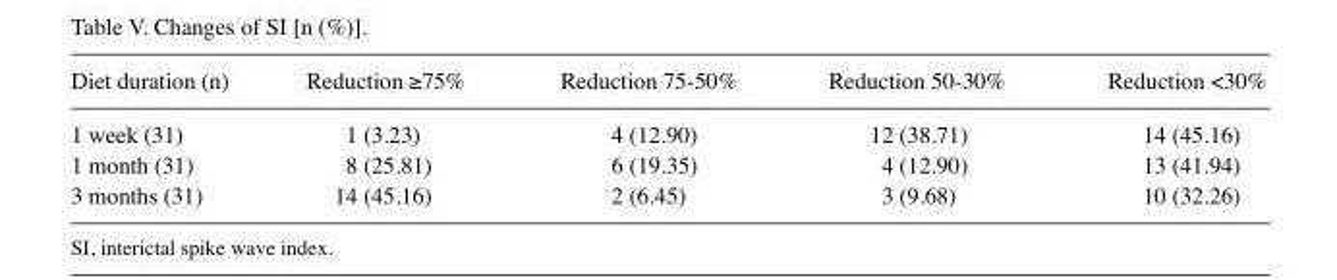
<table><thead><tr><td>Diet duration (n)</td><td>Reduction ≥75%</td><td>Reduction 75-50%</td><td>Reduction 50-30%</td><td>Reduction &lt;30%</td></tr></thead><tbody><tr><td>1 week (31)</td><td>1 (3.23)</td><td>4 (12.90)</td><td>12 (38.71)</td><td>14 (45.16)</td></tr><tr><td>1 month (31)</td><td>8 (25.81)</td><td>6 (19.35)</td><td>4 (12.90)</td><td>13 (41.94)</td></tr><tr><td>3 months (31)</td><td>14 (45.16)</td><td>2 (6.45)</td><td>3 (9.68)</td><td>10 (32.26)</td></tr></tbody></table>